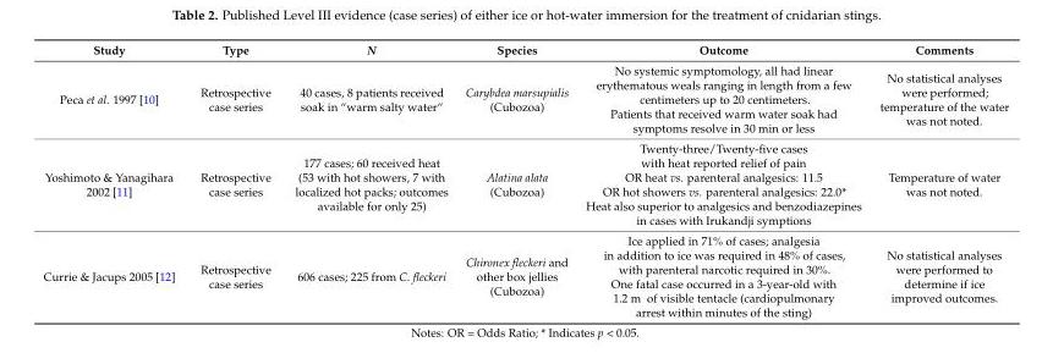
<table><thead><tr><td>Study</td><td>Type</td><td>N</td><td>Species</td><td>Outcome</td><td>Comments</td></tr></thead><tbody><tr><td>Peca et al. 1997 [10]</td><td>Retrospective case series</td><td>40 cases, 8 patients received soak in “warm salty water“</td><td>Carybdea marsupialis (Cubozoa)</td><td>No systemic symptomology, all had linear erythematous weals ranging in length from a few centimeters up to 20 centimeters. Patients that received warm water soak had symptoms resolve in 30 min or less</td><td>No statistical analyses were performed; temperature of the water was not noted.</td></tr><tr><td>Yoshimoto &amp; Yanagihara 2002 [11]</td><td>Retrospective case series</td><td>177 cases; 60 received heat (53 with hot showers, 7 with localized hot packs; outcomes available for only 25)</td><td>Alatina alata (Cubozoa)</td><td>Twenty-three/Twenty-five cases with heat reported relief of pain OR heat vs. parenteral analgesics: 11.5 OR hot showers vs. parenteral analgesics: 22.0* Heat also superior to analgesics and benzodiazepines in cases with Irukandji symptions</td><td>Temperature of water was not noted.</td></tr><tr><td>Currie &amp; Jacups 2005 [12]</td><td>Retrospective case series</td><td>606 cases; 225 from C. fleckeri</td><td>Chironex fleckeri and other box jellies (Cubozoa)</td><td>Ice applied in 71% of cases; analgesia in addition to ice was required in 48% of cases, with parenteral narcotic required in 30%. One fatal case occurred in a 3-year-old with 1.2 m of visible tentacle (cardiopulmonary arrest within minutes of the sting)</td><td>No statistical analyses were performed to determine if ice improved outcomes.</td></tr></tbody></table>